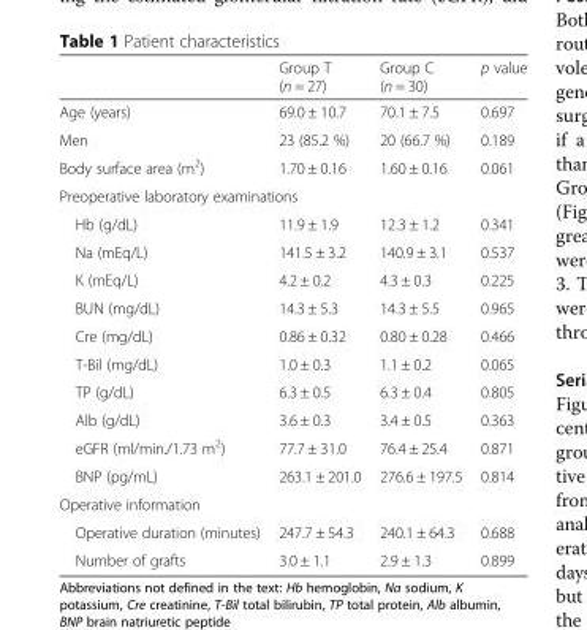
<table><thead><tr><td></td><td>Group T (n = 27)</td><td>Group C (n = 30)</td><td>p value</td></tr></thead><tbody><tr><td>Age (years)</td><td>69.0 ± 10.7</td><td>70.1 ± 7.5</td><td>0.697</td></tr><tr><td>Men</td><td>23 (85.2 %)</td><td>20 (66.7 %)</td><td>0.189</td></tr><tr><td>Body surface area (m<sup>2</sup>)</td><td>1.70 ± 0.16</td><td>1.60 ± 0.16</td><td>0.061</td></tr><tr><td colspan="4">Preoperative laboratory examinations</td></tr><tr><td>Hb (g/dL)</td><td>11.9 ± 1.9</td><td>12.3 ± 1.2</td><td>0.341</td></tr><tr><td>Na (mEq/L)</td><td>141.5 ± 3.2</td><td>140.9 ± 3.1</td><td>0.537</td></tr><tr><td>K (mEq/L)</td><td>4.2 ± 0.2</td><td>4.3 ± 0.3</td><td>0.225</td></tr><tr><td>BUN (mg/dL)</td><td>14.3 ± 5.3</td><td>14.3 ± 5.5</td><td>0.965</td></tr><tr><td>Cre (mg/dL)</td><td>0.86 ± 0.32</td><td>0.80 ± 0.28</td><td>0.466</td></tr><tr><td>T-Bil (mg/dL)</td><td>1.0 ± 0.3</td><td>1.1 ± 0.2</td><td>0.065</td></tr><tr><td>TP (g/dL)</td><td>6.3 ± 0.5</td><td>6.3 ± 0.4</td><td>0.805</td></tr><tr><td>Alb (g/dL)</td><td>3.6 ± 0.3</td><td>3.4 ± 0.5</td><td>0.363</td></tr><tr><td>eGFR (ml/min./1.73 m<sup>2</sup>)</td><td>77.7 ± 31.0</td><td>76.4 ± 25.4</td><td>0.871</td></tr><tr><td>BNP (pg/mL)</td><td>263.1 ± 201.0</td><td>276.6 ± 197.5</td><td>0.814</td></tr><tr><td colspan="4">Operative information</td></tr><tr><td>Operative duration (minutes)</td><td>247.7 ± 54.3</td><td>240.1 ± 64.3</td><td>0.688</td></tr><tr><td>Number of grafts</td><td>3.0 ± 1.1</td><td>2.9 ± 1.3</td><td>0.899</td></tr></tbody></table>